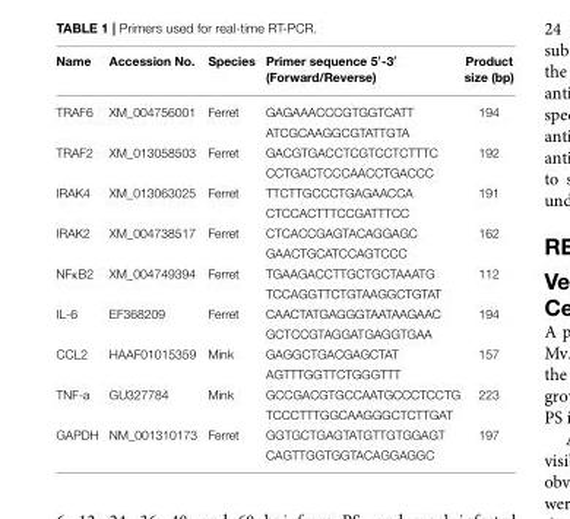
<table><thead><tr><td>Name</td><td>Accession No.</td><td>Species</td><td>Primer sequence 5′-3′ (Forward/Reverse)</td><td>Product size (bp)</td></tr></thead><tbody><tr><td rowspan="2">TRAF6</td><td>XM_004756001</td><td>Ferret</td><td>GAGAAACCCGTGGTCATT</td><td>194</td></tr><tr><td></td><td></td><td>ATCGCAAGGCGTATTGTA</td><td></td></tr><tr><td rowspan="2">TRAF2</td><td>XM_013058503</td><td>Ferret</td><td>GACGTGACCTCGTCCTCTTTC</td><td>192</td></tr><tr><td></td><td></td><td>CCTGACTCCCAACCTGACCC</td><td></td></tr><tr><td rowspan="2">IRAK4</td><td>XM_013063025</td><td>Ferret</td><td>TTCTTGCCCTGAGAACCA</td><td>191</td></tr><tr><td></td><td></td><td>CTCCACTTTCCGATTTCC</td><td></td></tr><tr><td rowspan="2">IRAK2</td><td>XM_004738517</td><td>Ferret</td><td>CTCACCGAGTACAGGAGC</td><td>162</td></tr><tr><td></td><td></td><td>GAACTGCATCCAGTCCC</td><td></td></tr><tr><td rowspan="2">NFκB2</td><td>XM_004749394</td><td>Ferret</td><td>TGAAGACCTTGCTGCTAAATG</td><td>112</td></tr><tr><td></td><td></td><td>TCCAGGTTCTGTAAGGCTGTAT</td><td></td></tr><tr><td rowspan="2">IL-6</td><td>EF368209</td><td>Ferret</td><td>CAACTATGAGGGTAATAAGAAC</td><td>194</td></tr><tr><td></td><td></td><td>GCTCCGTAGGATGAGGTGAA</td><td></td></tr><tr><td rowspan="2">CCL2</td><td>HAAF01015359</td><td>Mink</td><td>GAGGCTGACGAGCTAT</td><td>157</td></tr><tr><td></td><td></td><td>AGTTTGGTTCTGGGTTT</td><td></td></tr><tr><td rowspan="2">TNF-a</td><td>GU327784</td><td>Mink</td><td>GCCGACGTGCCAATGCCCTCCTG</td><td>223</td></tr><tr><td></td><td></td><td>TCCCTTTGGCAAGGGCTCTTGAT</td><td></td></tr><tr><td rowspan="2">GAPDH</td><td>NM_001310173</td><td>Ferret</td><td>GGTGCTGAGTATGTTGTGGAGT</td><td>197</td></tr><tr><td></td><td></td><td>CAGTTGGTGGTACAGGAGGC</td><td></td></tr></tbody></table>